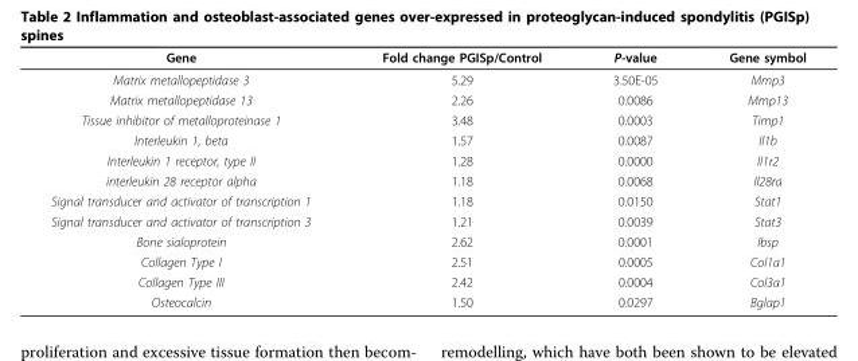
<table><thead><tr><td>Gene</td><td>Fold change PGISp/Control</td><td>P-value</td><td>Gene symbol</td></tr></thead><tbody><tr><td>Matrix metallopeptidase 3</td><td>5.29</td><td>3.50E-05</td><td>Mmp3</td></tr><tr><td>Matrix metallopeptidase 13</td><td>2.26</td><td>0.0086</td><td>Mmp13</td></tr><tr><td>Tissue inhibitor of metalloproteinase 1</td><td>3.48</td><td>0.0003</td><td>Timp1</td></tr><tr><td>Interleukin 1, beta</td><td>1.57</td><td>0.0087</td><td>Il1b</td></tr><tr><td>Interleukin 1 receptor, type II</td><td>1.28</td><td>0.0000</td><td>Il1r2</td></tr><tr><td>interleukin 28 receptor alpha</td><td>1.18</td><td>0.0068</td><td>Il28ra</td></tr><tr><td>Signal transducer and activator of transcription 1</td><td>1.18</td><td>0.0150</td><td>Stat1</td></tr><tr><td>Signal transducer and activator of transcription 3</td><td>1.21</td><td>0.0039</td><td>Stat3</td></tr><tr><td>Bone sialoprotein</td><td>2.62</td><td>0.0001</td><td>Ibsp</td></tr><tr><td>Collagen Type I</td><td>2.51</td><td>0.0005</td><td>Col1a1</td></tr><tr><td>Collagen Type III</td><td>2.42</td><td>0.0004</td><td>Col3a1</td></tr><tr><td>Osteocalcin</td><td>1.50</td><td>0.0297</td><td>Bglap1</td></tr></tbody></table>